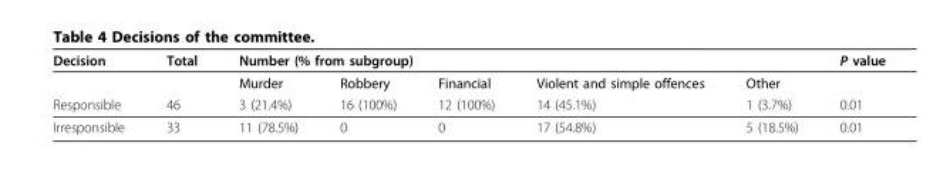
<table><thead><tr><td rowspan="2">Decision</td><td rowspan="2">Total</td><td colspan="5">Number (% from subgroup)</td><td rowspan="2">P value</td></tr><tr><td>Murder</td><td>Robbery</td><td>Financial</td><td>Violent and simple offences</td><td>Other</td></tr></thead><tbody><tr><td>Responsible</td><td>46</td><td>3 (21.4%)</td><td>16 (100%)</td><td>12 (100%)</td><td>14 (45.1%)</td><td>1 (3.7%)</td><td>0.01</td></tr><tr><td>Irresponsible</td><td>33</td><td>11 (78.5%)</td><td>0</td><td>0</td><td>17 (54.8%)</td><td>5 (18.5%)</td><td>0.01</td></tr></tbody></table>